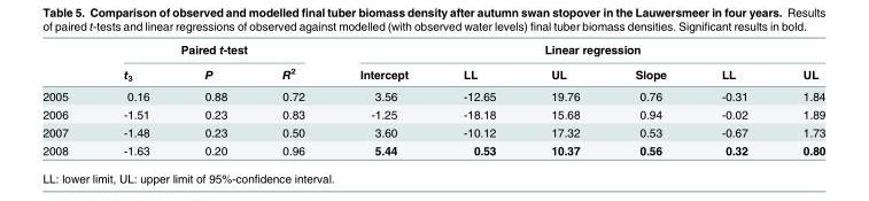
<table><thead><tr><td rowspan="2"></td><td colspan="3">Paired t-test</td><td colspan="6">Linear regression</td></tr><tr><td>t<sub>3</sub></td><td>P</td><td>R<sup>2</sup></td><td>Intercept</td><td>LL</td><td>UL</td><td>Slope</td><td>LL</td><td>UL</td></tr></thead><tbody><tr><td>2005</td><td>0.16</td><td>0.88</td><td>0.72</td><td>3.56</td><td>-12.65</td><td>19.76</td><td>0.76</td><td>-0.31</td><td>1.84</td></tr><tr><td>2006</td><td>-1.51</td><td>0.23</td><td>0.83</td><td>-1.25</td><td>-18.18</td><td>15.68</td><td>0.94</td><td>-0.02</td><td>1.89</td></tr><tr><td>2007</td><td>-1.48</td><td>0.23</td><td>0.50</td><td>3.60</td><td>-10.12</td><td>17.32</td><td>0.53</td><td>-0.67</td><td>1.73</td></tr><tr><td>2008</td><td>-1.63</td><td>0.20</td><td>0.96</td><td>5.44</td><td>0.53</td><td>10.37</td><td>0.56</td><td>0.32</td><td>0.80</td></tr></tbody></table>